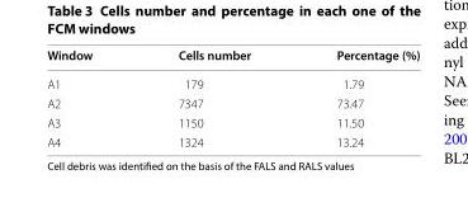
<table><thead><tr><td>Window</td><td>Cells number</td><td>Percentage (%)</td></tr></thead><tbody><tr><td>A1</td><td>179</td><td>1.79</td></tr><tr><td>A2</td><td>7347</td><td>73.47</td></tr><tr><td>A3</td><td>1150</td><td>11.50</td></tr><tr><td>A4</td><td>1324</td><td>13.24</td></tr></tbody></table>